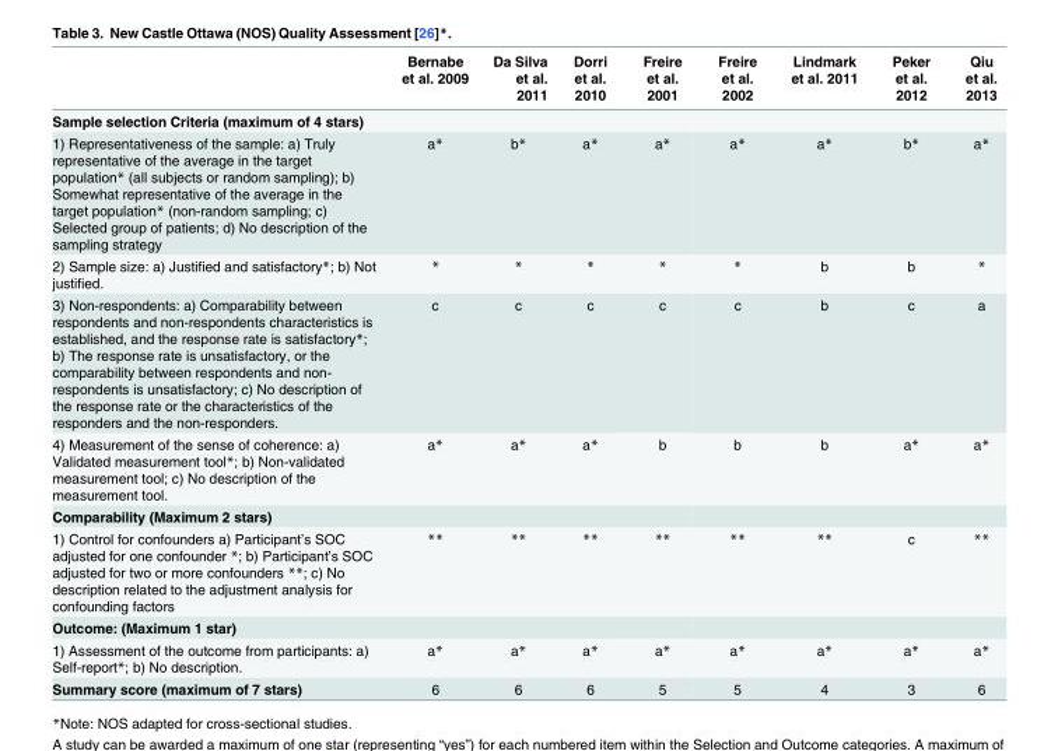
<table><thead><tr><td></td><td>Bernabe et al. 2009</td><td>Da Silva et al. 2011</td><td>Dorri et al. 2010</td><td>Freire et al. 2001</td><td>Freire et al. 2002</td><td>Lindmark et al. 2011</td><td>Peker et al. 2012</td><td>Qiu et al. 2013</td></tr></thead><tbody><tr><td colspan="9">Sample selection Criteria (maximum of 4 stars)</td></tr><tr><td>1) Representativeness of the sample: a) Truly representative of the average in the target population* (all subjects or random sampling); b) Somewhat representative of the average in the target population* (non-random sampling; c) Selected group of patients; d) No description of the sampling strategy</td><td>a*</td><td>b*</td><td>a*</td><td>a*</td><td>a*</td><td>a*</td><td>b*</td><td>a*</td></tr><tr><td>2) Sample size: a) Justified and satisfactory*; b) Not justified.</td><td>*</td><td>*</td><td>*</td><td>*</td><td>*</td><td>b</td><td>b</td><td>*</td></tr><tr><td>3) Non-respondents: a) Comparability between respondents and non-respondents characteristics is established, and the response rate is satisfactory*; b) The response rate is unsatisfactory, or the comparability between respondents and non- respondents is unsatisfactory; c) No description of the response rate or the characteristics of the responders and the non-responders.</td><td>c</td><td>c</td><td>c</td><td>c</td><td>c</td><td>b</td><td>c</td><td>a</td></tr><tr><td>4) Measurement of the sense of coherence: a) Validated measurement tool*; b) Non-validated measurement tool; c) No description of the measurement tool.</td><td>a*</td><td>a*</td><td>a*</td><td>b</td><td>b</td><td>b</td><td>a*</td><td>a*</td></tr><tr><td colspan="9">Comparability (Maximum 2 stars)</td></tr><tr><td>1) Control for confounders a) Participant’s SOC adjusted for one confounder *; b) Participant’s SOC adjusted for two or more confounders **; c) No description related to the adjustment analysis for confounding factors</td><td>**</td><td>**</td><td>**</td><td>**</td><td>**</td><td>**</td><td>c</td><td>**</td></tr><tr><td colspan="9">Outcome: (Maximum 1 star)</td></tr><tr><td>1) Assessment of the outcome from participants: a) Self-report*; b) No description.</td><td>a*</td><td>a*</td><td>a*</td><td>a*</td><td>a*</td><td>a*</td><td>a*</td><td>a*</td></tr><tr><td>Summary score (maximum of 7 stars)</td><td>6</td><td>6</td><td>6</td><td>5</td><td>5</td><td>4</td><td>3</td><td>6</td></tr></tbody></table>